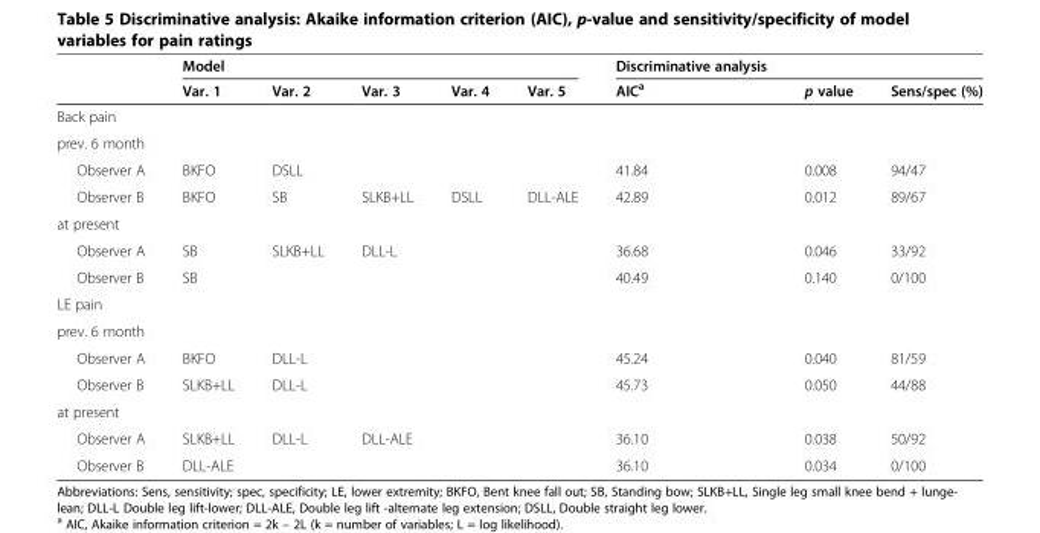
<table><thead><tr><td rowspan="2"></td><td rowspan="2">Model Var. 1</td><td rowspan="2">Var. 2</td><td rowspan="2">Var. 3</td><td rowspan="2">Var. 4</td><td rowspan="2">Var. 5</td><td rowspan="2">Discriminative analysis AIC<sup>a</sup></td><td rowspan="2">p value</td><td rowspan="2">Sens/spec (%)</td></tr><tr></tr></thead><tbody><tr><td colspan="9">Back pain</td></tr><tr><td colspan="9">prev. 6 month</td></tr><tr><td>Observer A</td><td>BKFO</td><td>DSLL</td><td></td><td></td><td></td><td>41.84</td><td>0.008</td><td>94/47</td></tr><tr><td>Observer B</td><td>BKFO</td><td>SB</td><td>SLKB+LL</td><td>DSLL</td><td>DLL-ALE</td><td>42.89</td><td>0.012</td><td>89/67</td></tr><tr><td colspan="9">at present</td></tr><tr><td>Observer A</td><td>SB</td><td>SLKB+LL</td><td>DLL-L</td><td></td><td></td><td>36.68</td><td>0.046</td><td>33/92</td></tr><tr><td>Observer B</td><td>SB</td><td></td><td></td><td></td><td></td><td>40.49</td><td>0.140</td><td>0/100</td></tr><tr><td colspan="9">LE pain</td></tr><tr><td colspan="9">prev. 6 month</td></tr><tr><td>Observer A</td><td>BKFO</td><td>DLL-L</td><td></td><td></td><td></td><td>45.24</td><td>0.040</td><td>81/59</td></tr><tr><td>Observer B</td><td>SLKB+LL</td><td>DLL-L</td><td></td><td></td><td></td><td>45.73</td><td>0.050</td><td>44/88</td></tr><tr><td colspan="9">at present</td></tr><tr><td>Observer A</td><td>SLKB+LL</td><td>DLL-L</td><td>DLL-ALE</td><td></td><td></td><td>36.10</td><td>0.038</td><td>50/92</td></tr><tr><td>Observer B</td><td>DLL-ALE</td><td></td><td></td><td></td><td></td><td>36.10</td><td>0.034</td><td>0/100</td></tr></tbody></table>